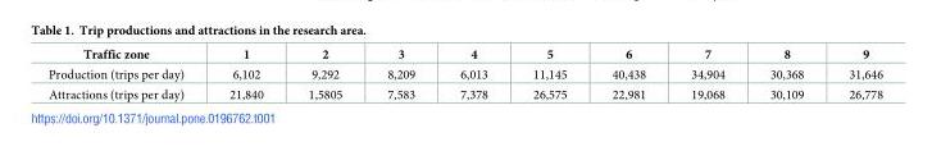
<table><thead><tr><td>Traffic zone</td><td>1</td><td>2</td><td>3</td><td>4</td><td>5</td><td>6</td><td>7</td><td>8</td><td>9</td></tr></thead><tbody><tr><td>Production (trips per day)</td><td>6,102</td><td>9,292</td><td>8,209</td><td>6,013</td><td>11,145</td><td>40,438</td><td>34,904</td><td>30,368</td><td>31,646</td></tr><tr><td>Attractions (trips per day)</td><td>21,840</td><td>1,5805</td><td>7,583</td><td>7,378</td><td>26,575</td><td>22,981</td><td>19,068</td><td>30,109</td><td>26,778</td></tr></tbody></table>